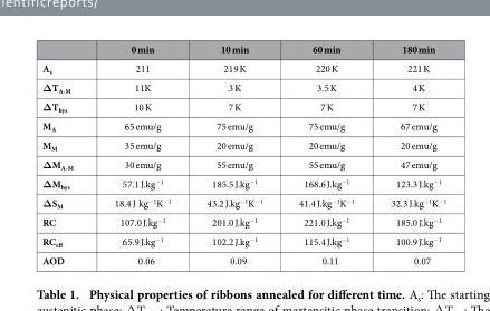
<table><thead><tr><td></td><td>0 min</td><td>10 min</td><td>60 min</td><td>180 min</td></tr></thead><tbody><tr><td>A<sub>s</sub></td><td>211</td><td>219 K</td><td>220 K</td><td>221 K</td></tr><tr><td>ΔT<sub>A-M</sub></td><td>11K</td><td>3 K</td><td>3.5 K</td><td>4 K</td></tr><tr><td>ΔT<sub>hys</sub></td><td>10 K</td><td>7 K</td><td>7 K</td><td>7 K</td></tr><tr><td>M<sub>A</sub></td><td>65 emu/g</td><td>75 emu/g</td><td>75 emu/g</td><td>67 emu/g</td></tr><tr><td>M<sub>M</sub></td><td>35 emu/g</td><td>20 emu/g</td><td>20 emu/g</td><td>20 emu/g</td></tr><tr><td>ΔM<sub>A-M</sub></td><td>30 emu/g</td><td>55 emu/g</td><td>55 emu/g</td><td>47 emu/g</td></tr><tr><td>ΔM<sub>hys</sub></td><td>57.1 J.kg<sup>−1</sup></td><td>185.5 J.kg<sup>−1</sup></td><td>168.6 J.kg<sup>−1</sup></td><td>123.3 J.kg<sup>−1</sup></td></tr><tr><td>ΔS<sub>M</sub></td><td>18.4 J kg<sup>−1</sup>K<sup>−1</sup></td><td>43.2 J.kg<sup>−1</sup>K<sup>−1</sup></td><td>41.4 J.kg<sup>−1</sup>K<sup>−1</sup></td><td>32.3 J.kg<sup>−1</sup>K<sup>−1</sup></td></tr><tr><td>RC</td><td>107.0 J.kg<sup>−1</sup></td><td>201.0 J.kg<sup>−1</sup></td><td>221.0 J.kg<sup>−1</sup></td><td>185.0 J.kg<sup>−1</sup></td></tr><tr><td>RC<sub>eff</sub></td><td>65.9 J.kg<sup>−1</sup></td><td>102.2 J.kg<sup>−1</sup></td><td>115.4 J.kg<sup>−1</sup></td><td>100.9 J.kg<sup>−1</sup></td></tr><tr><td>AOD</td><td>0.06</td><td>0.09</td><td>0.11</td><td>0.07</td></tr></tbody></table>